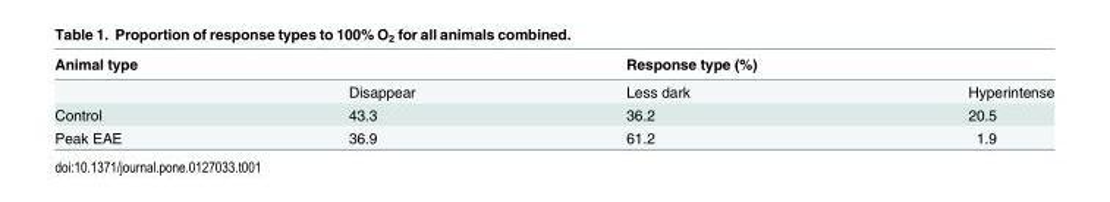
<table><thead><tr><td>Animal type</td><td></td><td>Response type (%)</td><td></td></tr></thead><tbody><tr><td></td><td>Disappear</td><td>Less dark</td><td>Hyperintense</td></tr><tr><td>Control</td><td>43.3</td><td>36.2</td><td>20.5</td></tr><tr><td>Peak EAE</td><td>36.9</td><td>61.2</td><td>1.9</td></tr></tbody></table>